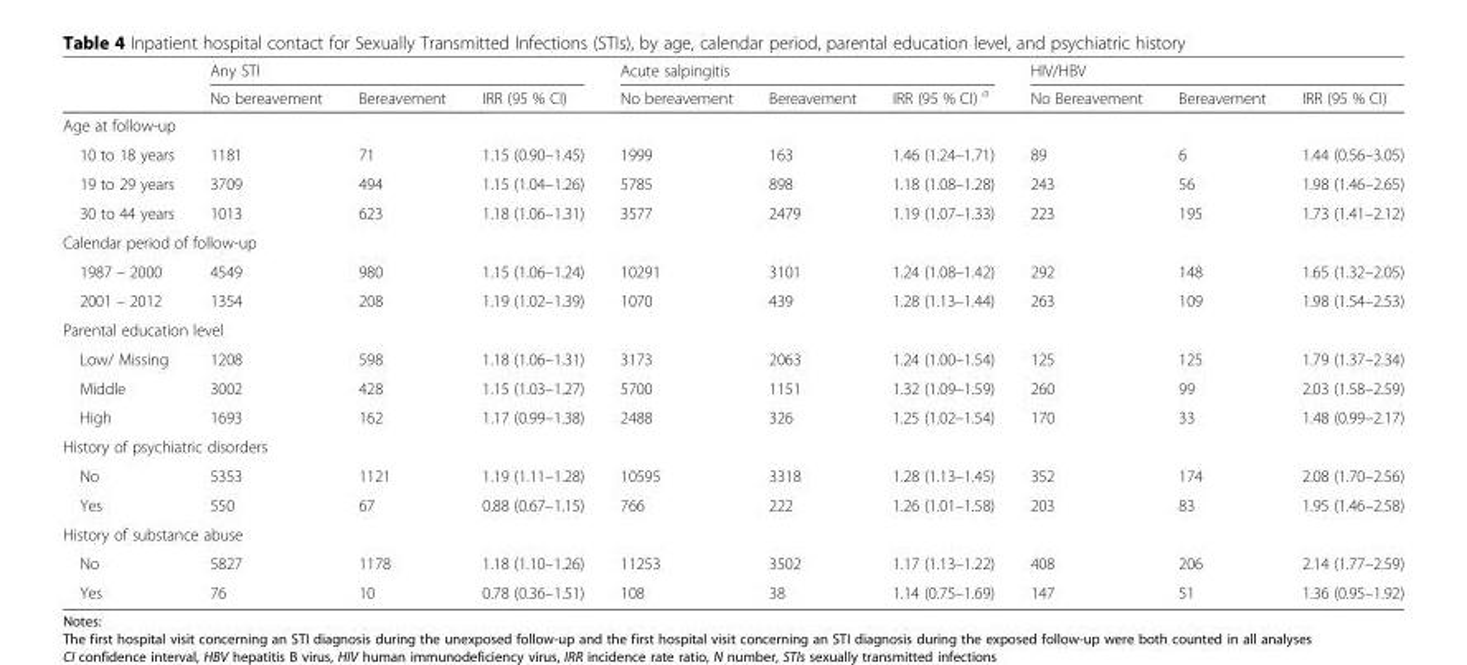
<table><thead><tr><td rowspan="2"></td><td colspan="3">Any STI</td><td colspan="3">Acute salpingitis</td><td colspan="3">HIV/HBV</td></tr><tr><td>No bereavement</td><td>Bereavement</td><td>IRR (95 % CI)</td><td>No bereavement</td><td>Bereavement</td><td>IRR (95 % CI) <sup>a</sup></td><td>No Bereavement</td><td>Bereavement</td><td>IRR (95 % CI)</td></tr></thead><tbody><tr><td colspan="10">Age at follow-up</td></tr><tr><td>10 to 18 years</td><td>1181</td><td>71</td><td>1.15 (0.90–1.45)</td><td>1999</td><td>163</td><td>1.46 (1.24–1.71)</td><td>89</td><td>6</td><td>1.44 (0.56–3.05)</td></tr><tr><td>19 to 29 years</td><td>3709</td><td>494</td><td>1.15 (1.04–1.26)</td><td>5785</td><td>898</td><td>1.18 (1.08–1.28)</td><td>243</td><td>56</td><td>1.98 (1.46–2.65)</td></tr><tr><td>30 to 44 years</td><td>1013</td><td>623</td><td>1.18 (1.06–1.31)</td><td>3577</td><td>2479</td><td>1.19 (1.07–1.33)</td><td>223</td><td>195</td><td>1.73 (1.41–2.12)</td></tr><tr><td colspan="10">Calendar period of follow-up</td></tr><tr><td>1987 – 2000</td><td>4549</td><td>980</td><td>1.15 (1.06–1.24)</td><td>10291</td><td>3101</td><td>1.24 (1.08–1.42)</td><td>292</td><td>148</td><td>1.65 (1.32–2.05)</td></tr><tr><td>2001 – 2012</td><td>1354</td><td>208</td><td>1.19 (1.02–1.39)</td><td>1070</td><td>439</td><td>1.28 (1.13–1.44)</td><td>263</td><td>109</td><td>1.98 (1.54–2.53)</td></tr><tr><td colspan="10">Parental education level</td></tr><tr><td>Low/ Missing</td><td>1208</td><td>598</td><td>1.18 (1.06–1.31)</td><td>3173</td><td>2063</td><td>1.24 (1.00–1.54)</td><td>125</td><td>125</td><td>1.79 (1.37–2.34)</td></tr><tr><td>Middle</td><td>3002</td><td>428</td><td>1.15 (1.03–1.27)</td><td>5700</td><td>1151</td><td>1.32 (1.09–1.59)</td><td>260</td><td>99</td><td>2.03 (1.58–2.59)</td></tr><tr><td>High</td><td>1693</td><td>162</td><td>1.17 (0.99–1.38)</td><td>2488</td><td>326</td><td>1.25 (1.02–1.54)</td><td>170</td><td>33</td><td>1.48 (0.99–2.17)</td></tr><tr><td colspan="10">History of psychiatric disorders</td></tr><tr><td>No</td><td>5353</td><td>1121</td><td>1.19 (1.11–1.28)</td><td>10595</td><td>3318</td><td>1.28 (1.13–1.45)</td><td>352</td><td>174</td><td>2.08 (1.70–2.56)</td></tr><tr><td>Yes</td><td>550</td><td>67</td><td>0.88 (0.67–1.15)</td><td>766</td><td>222</td><td>1.26 (1.01–1.58)</td><td>203</td><td>83</td><td>1.95 (1.46–2.58)</td></tr><tr><td colspan="10">History of substance abuse</td></tr><tr><td>No</td><td>5827</td><td>1178</td><td>1.18 (1.10–1.26)</td><td>11253</td><td>3502</td><td>1.17 (1.13–1.22)</td><td>408</td><td>206</td><td>2.14 (1.77–2.59)</td></tr><tr><td>Yes</td><td>76</td><td>10</td><td>0.78 (0.36–1.51)</td><td>108</td><td>38</td><td>1.14 (0.75–1.69)</td><td>147</td><td>51</td><td>1.36 (0.95–1.92)</td></tr></tbody></table>